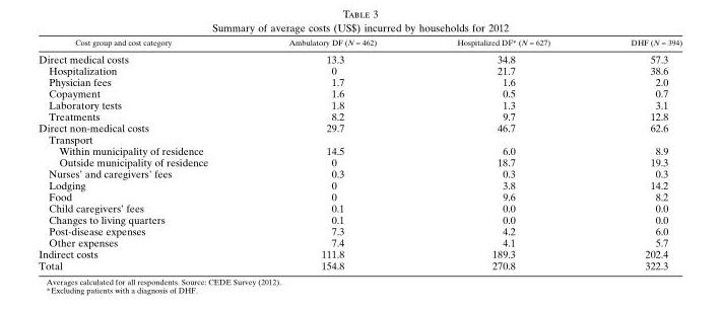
<table><thead><tr><td>Cost group and cost category</td><td>Ambulatory DF (N = 462)</td><td>Hospitalized DF* (N = 627)</td><td>DHF (N = 394)</td></tr></thead><tbody><tr><td>Direct medical costs</td><td>13.3</td><td>34.8</td><td>57.3</td></tr><tr><td>Hospitalization</td><td>0</td><td>21.7</td><td>38.6</td></tr><tr><td>Physician fees</td><td>1.7</td><td>1.6</td><td>2.0</td></tr><tr><td>Copayment</td><td>1.6</td><td>0.5</td><td>0.7</td></tr><tr><td>Laboratory tests</td><td>1.8</td><td>1.3</td><td>3.1</td></tr><tr><td>Treatments</td><td>8.2</td><td>9.7</td><td>12.8</td></tr><tr><td>Direct non-medical costs</td><td>29.7</td><td>46.7</td><td>62.6</td></tr><tr><td colspan="4">Transport</td></tr><tr><td>Within municipality of residence</td><td>14.5</td><td>6.0</td><td>8.9</td></tr><tr><td>Outside municipality of residence</td><td>0</td><td>18.7</td><td>19.3</td></tr><tr><td>Nurses’ and caregivers’ fees</td><td>0.3</td><td>0.3</td><td>0.3</td></tr><tr><td>Lodging</td><td>0</td><td>3.8</td><td>14.2</td></tr><tr><td>Food</td><td>0</td><td>9.6</td><td>8.2</td></tr><tr><td>Child caregivers’ fees</td><td>0.1</td><td>0.0</td><td>0.0</td></tr><tr><td>Changes to living quarters</td><td>0.1</td><td>0.0</td><td>0.0</td></tr><tr><td>Post-disease expenses</td><td>7.3</td><td>4.2</td><td>6.0</td></tr><tr><td>Other expenses</td><td>7.4</td><td>4.1</td><td>5.7</td></tr><tr><td>Indirect costs</td><td>111.8</td><td>189.3</td><td>202.4</td></tr><tr><td>Total</td><td>154.8</td><td>270.8</td><td>322.3</td></tr></tbody></table>